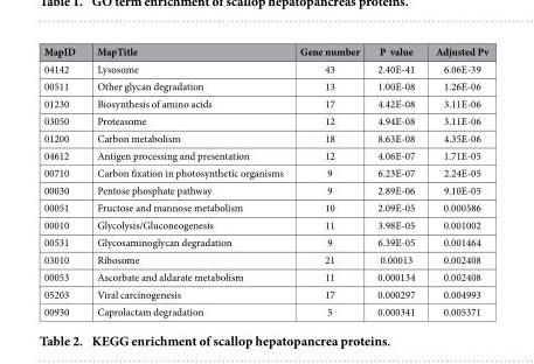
<table><thead><tr><td>MapID</td><td>MapTitle</td><td>Gene number</td><td>P value</td><td>Adjusted Pv</td></tr></thead><tbody><tr><td>04142</td><td>Lysosome</td><td>43</td><td>2.40E-41</td><td>6.06E-39</td></tr><tr><td>00511</td><td>Other glycan degradation</td><td>13</td><td>1.00E-08</td><td>1.26E-06</td></tr><tr><td>01230</td><td>Biosynthesis of amino acids</td><td>17</td><td>4.42E-08</td><td>3.11E-06</td></tr><tr><td>03050</td><td>Proteasome</td><td>12</td><td>4.94E-08</td><td>3.11E-06</td></tr><tr><td>01200</td><td>Carbon metabolism</td><td>18</td><td>8.63E-08</td><td>4.35E-06</td></tr><tr><td>04612</td><td>Antigen processing and presentation</td><td>12</td><td>4.06E-07</td><td>1.71E-05</td></tr><tr><td>00710</td><td>Carbon fixation in photosynthetic organisms</td><td>9</td><td>6.23E-07</td><td>2.24E-05</td></tr><tr><td>00030</td><td>Pentose phosphate pathway</td><td>9</td><td>2.89E-06</td><td>9.10E-05</td></tr><tr><td>00051</td><td>Fructose and mannose metabolism</td><td>10</td><td>2.09E-05</td><td>0.000586</td></tr><tr><td>00010</td><td>Glycolysis/Gluconeogenesis</td><td>11</td><td>3.98E-05</td><td>0.001002</td></tr><tr><td>00531</td><td>Glycosaminoglycan degradation</td><td>9</td><td>6.39E-05</td><td>0.001464</td></tr><tr><td>03010</td><td>Ribosome</td><td>21</td><td>0.00013</td><td>0.002408</td></tr><tr><td>00053</td><td>Ascorbate and aldarate metabolism</td><td>11</td><td>0.000134</td><td>0.002408</td></tr><tr><td>05203</td><td>Viral carcinogenesis</td><td>17</td><td>0.000297</td><td>0.004993</td></tr><tr><td>00930</td><td>Caprolactam degradation</td><td>5</td><td>0.000341</td><td>0.005371</td></tr></tbody></table>